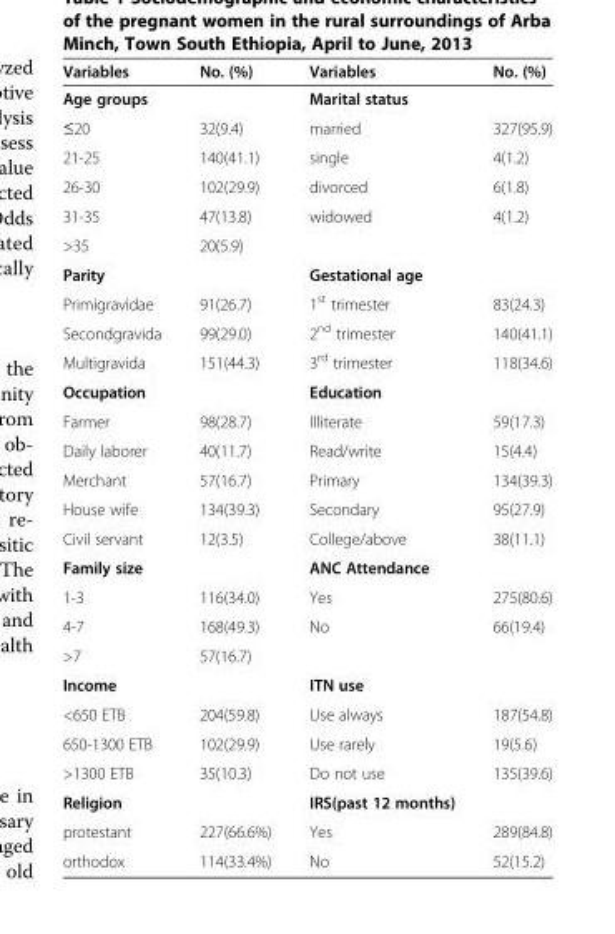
<table><thead><tr><td>Variables</td><td>No. (%)</td><td>Variables</td><td>No. (%)</td></tr></thead><tbody><tr><td>Age groups</td><td></td><td>Marital status</td><td></td></tr><tr><td>≤20</td><td>32(9.4)</td><td>married</td><td>327(95.9)</td></tr><tr><td>21-25</td><td>140(41.1)</td><td>single</td><td>4(1.2)</td></tr><tr><td>26-30</td><td>102(29.9)</td><td>divorced</td><td>6(1.8)</td></tr><tr><td>31-35</td><td>47(13.8)</td><td>widowed</td><td>4(1.2)</td></tr><tr><td>&gt;35</td><td>20(5.9)</td><td></td><td></td></tr><tr><td>Parity</td><td></td><td>Gestational age</td><td></td></tr><tr><td>Primigravidae</td><td>91(26.7)</td><td>1<sup>st</sup> trimester</td><td>83(24.3)</td></tr><tr><td>Secondgravida</td><td>99(29.0)</td><td>2<sup>nd</sup> trimester</td><td>140(41.1)</td></tr><tr><td>Multigravida</td><td>151(44.3)</td><td>3<sup>rd</sup> trimester</td><td>118(34.6)</td></tr><tr><td>Occupation</td><td></td><td>Education</td><td></td></tr><tr><td>Farmer</td><td>98(28.7)</td><td>Illiterate</td><td>59(17.3)</td></tr><tr><td>Daily laborer</td><td>40(11.7)</td><td>Read/write</td><td>15(4.4)</td></tr><tr><td>Merchant</td><td>57(16.7)</td><td>Primary</td><td>134(39.3)</td></tr><tr><td>House wife</td><td>134(39.3)</td><td>Secondary</td><td>95(27.9)</td></tr><tr><td>Civil servant</td><td>12(3.5)</td><td>College/above</td><td>38(11.1)</td></tr><tr><td>Family size</td><td></td><td>ANC Attendance</td><td></td></tr><tr><td>1-3</td><td>116(34.0)</td><td>Yes</td><td>275(80.6)</td></tr><tr><td>4-7</td><td>168(49.3)</td><td>No</td><td>66(19.4)</td></tr><tr><td>&gt;7</td><td>57(16.7)</td><td></td><td></td></tr><tr><td>Income</td><td></td><td>ITN use</td><td></td></tr><tr><td>&lt;650 ETB</td><td>204(59.8)</td><td>Use always</td><td>187(54.8)</td></tr><tr><td>650-1300 ETB</td><td>102(29.9)</td><td>Use rarely</td><td>19(5.6)</td></tr><tr><td>&gt;1300 ETB</td><td>35(10.3)</td><td>Do not use</td><td>135(39.6)</td></tr><tr><td>Religion</td><td></td><td>IRS(past 12 months)</td><td></td></tr><tr><td>protestant</td><td>227(66.6%)</td><td>Yes</td><td>289(84.8)</td></tr><tr><td>orthodox</td><td>114(33.4%)</td><td>No</td><td>52(15.2)</td></tr></tbody></table>